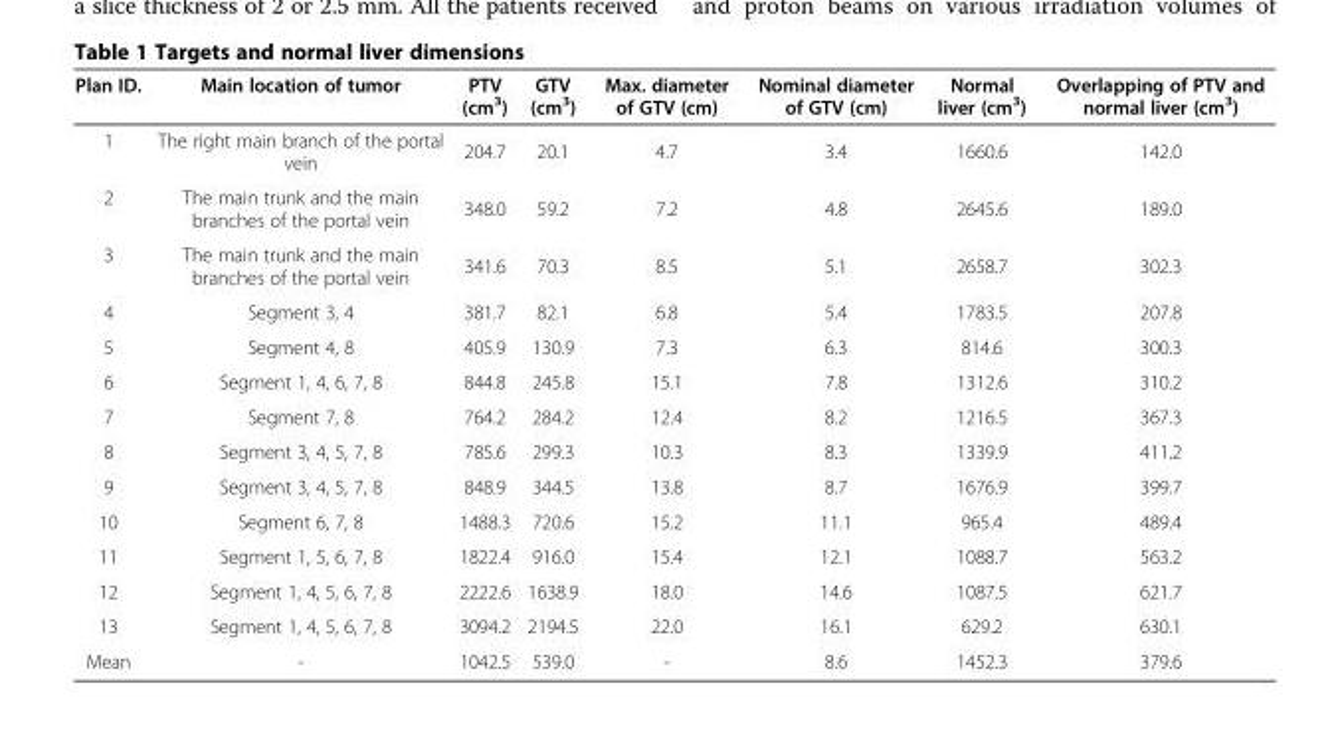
<table><thead><tr><td>Plan ID.</td><td>Main location of tumor</td><td>PTV (cm<sup>3</sup>)</td><td>GTV (cm<sup>3</sup>)</td><td>Max. diameter of GTV (cm)</td><td>Nominal diameter of GTV (cm)</td><td>Normal liver (cm<sup>3</sup>)</td><td>Overlapping of PTV and normal liver (cm<sup>3</sup>)</td></tr></thead><tbody><tr><td>1</td><td>The right main branch of the portal vein</td><td>204.7</td><td>20.1</td><td>4.7</td><td>3.4</td><td>1660.6</td><td>142.0</td></tr><tr><td>2</td><td>The main trunk and the main branches of the portal vein</td><td>348.0</td><td>59.2</td><td>7.2</td><td>4.8</td><td>2645.6</td><td>189.0</td></tr><tr><td>3</td><td>The main trunk and the main branches of the portal vein</td><td>341.6</td><td>70.3</td><td>8.5</td><td>5.1</td><td>2658.7</td><td>302.3</td></tr><tr><td>4</td><td>Segment 3, 4</td><td>381.7</td><td>82.1</td><td>6.8</td><td>5.4</td><td>1783.5</td><td>207.8</td></tr><tr><td>5</td><td>Segment 4, 8</td><td>405.9</td><td>130.9</td><td>7.3</td><td>6.3</td><td>814.6</td><td>300.3</td></tr><tr><td>6</td><td>Segment 1, 4, 6, 7, 8</td><td>844.8</td><td>245.8</td><td>15.1</td><td>7.8</td><td>1312.6</td><td>310.2</td></tr><tr><td>7</td><td>Segment 7, 8</td><td>764.2</td><td>284.2</td><td>12.4</td><td>8.2</td><td>1216.5</td><td>367.3</td></tr><tr><td>8</td><td>Segment 3, 4, 5, 7, 8</td><td>785.6</td><td>299.3</td><td>10.3</td><td>8.3</td><td>1339.9</td><td>411.2</td></tr><tr><td>9</td><td>Segment 3, 4, 5, 7, 8</td><td>848.9</td><td>344.5</td><td>13.8</td><td>8.7</td><td>1676.9</td><td>399.7</td></tr><tr><td>10</td><td>Segment 6, 7, 8</td><td>1488.3</td><td>720.6</td><td>15.2</td><td>11.1</td><td>965.4</td><td>489.4</td></tr><tr><td>11</td><td>Segment 1, 5, 6, 7, 8</td><td>1822.4</td><td>916.0</td><td>15.4</td><td>12.1</td><td>1088.7</td><td>563.2</td></tr><tr><td>12</td><td>Segment 1, 4, 5, 6, 7, 8</td><td>2222.6</td><td>1638.9</td><td>18.0</td><td>14.6</td><td>1087.5</td><td>621.7</td></tr><tr><td>13</td><td>Segment 1, 4, 5, 6, 7, 8</td><td>3094.2</td><td>2194.5</td><td>22.0</td><td>16.1</td><td>629.2</td><td>630.1</td></tr><tr><td>Mean</td><td>-</td><td>1042.5</td><td>539.0</td><td>-</td><td>8.6</td><td>1452.3</td><td>379.6</td></tr></tbody></table>